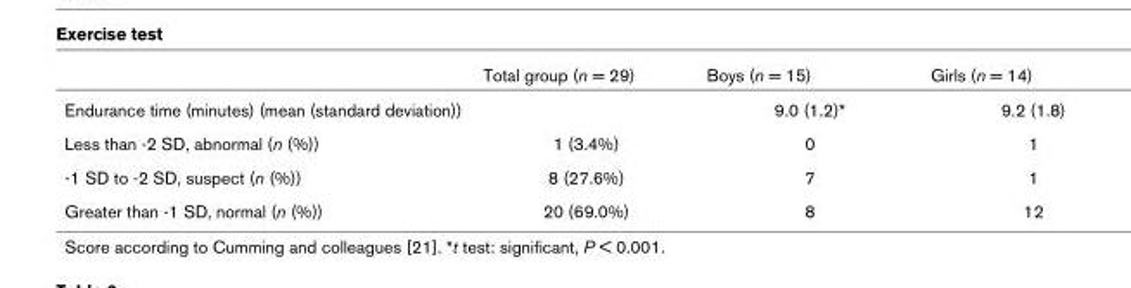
<table><thead><tr><td></td><td>Total group (n = 29)</td><td>Boys (n = 15)</td><td>Girls (n = 14)</td></tr></thead><tbody><tr><td>Endurance time (minutes) (mean (standard deviation))</td><td></td><td>9.0 (1.2)*</td><td>9.2 (1.8)</td></tr><tr><td>Less than -2 SD, abnormal (n (%))</td><td>1 (3.4%)</td><td>0</td><td>1</td></tr><tr><td>-1 SD to -2 SD, suspect (n (%))</td><td>8 (27.6%)</td><td>7</td><td>1</td></tr><tr><td>Greater than -1 SD, normal (n (%))</td><td>20 (69.0%)</td><td>8</td><td>12</td></tr></tbody></table>